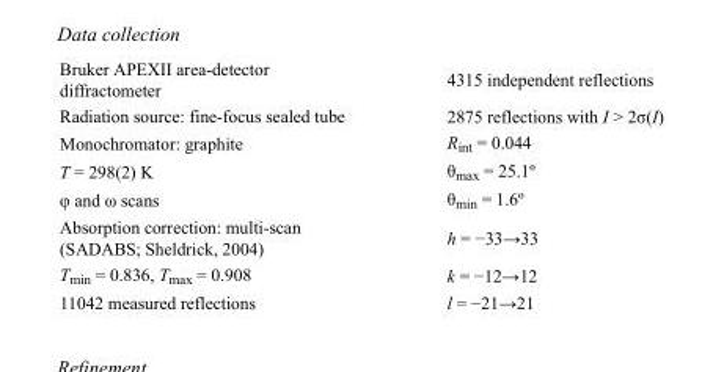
<table><tbody><tr><td>Bruker APEXII area-detector diffractometer</td><td>4315 independent reflections</td></tr><tr><td>Radiation source: fine-focus sealed tube</td><td>2875 reflections with I &gt; 2σ(I)</td></tr><tr><td>Monochromator: graphite</td><td>R<sub>int</sub> = 0.044</td></tr><tr><td>T = 298(2) K</td><td>θ<sub>max</sub> = 25.1º</td></tr><tr><td>φ and ω scans</td><td>θ<sub>min</sub> = 1.6º</td></tr><tr><td>Absorption correction: multi-scan (SADABS; Sheldrick, 2004)</td><td>h = −33→33</td></tr><tr><td>T<sub>min</sub> = 0.836, T<sub>max</sub> = 0.908</td><td>k = −12→12</td></tr><tr><td>11042 measured reflections</td><td>l = −21→21</td></tr></tbody></table>